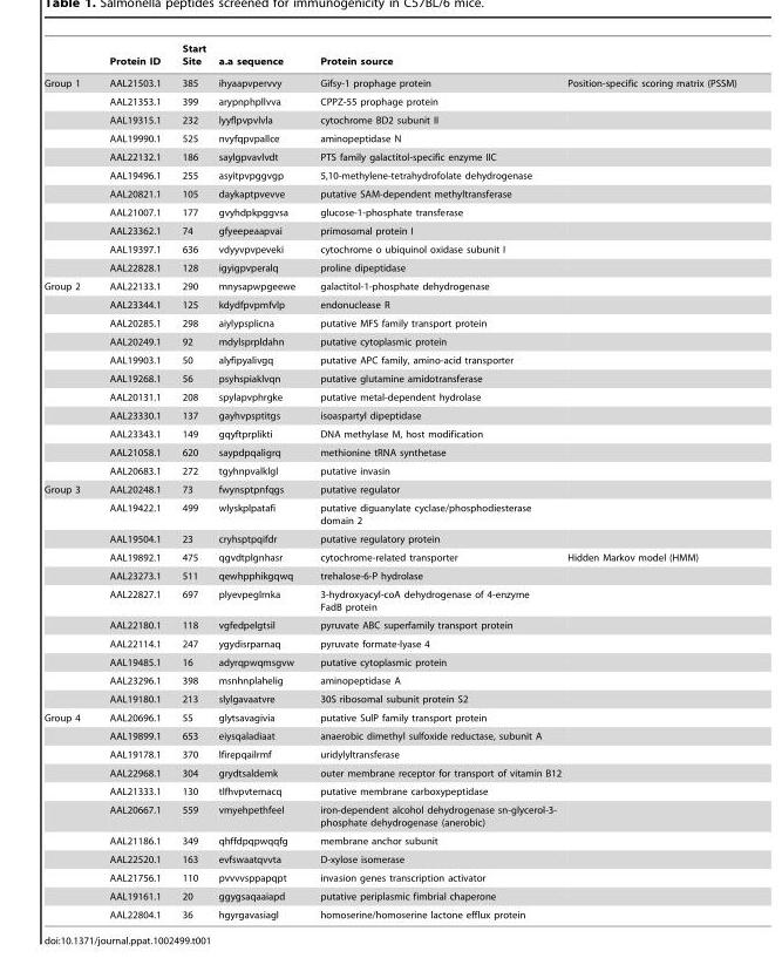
<table><thead><tr><td></td><td>Protein ID</td><td>Start Site</td><td>a.a sequence</td><td>Protein source</td><td></td></tr></thead><tbody><tr><td rowspan="11">Group 1</td><td>AAL21503.1</td><td>385</td><td>ihyaapvpervvy</td><td>Gifsy-1 prophage protein</td><td>Position-specific scoring matrix (PSSM)</td></tr><tr><td>AAL21353.1</td><td>399</td><td>arypnphpllvva</td><td>CPPZ-55 prophage protein</td><td></td></tr><tr><td>AAL19315.1</td><td>232</td><td>lyyflpvpvlvla</td><td>cytochrome BD2 subunit II</td><td></td></tr><tr><td>AAL19990.1</td><td>525</td><td>nvyfqpvpallce</td><td>aminopeptidase N</td><td></td></tr><tr><td>AAL22132.1</td><td>186</td><td>saylgpvavlvdt</td><td>PTS family galactitol-specific enzyme IIC</td><td></td></tr><tr><td>AAL19496.1</td><td>255</td><td>asyitpvpggvgp</td><td>5,10-methylene-tetrahydrofolate dehydrogenase</td><td></td></tr><tr><td>AAL20821.1</td><td>105</td><td>daykaptpvevve</td><td>putative SAM-dependent methyltransferase</td><td></td></tr><tr><td>AAL21007.1</td><td>177</td><td>gvyhdpkpggvsa</td><td>glucose-1-phosphate transferase</td><td></td></tr><tr><td>AAL23362.1</td><td>74</td><td>gfyeepeaapvai</td><td>primosomal protein I</td><td></td></tr><tr><td>AAL19397.1</td><td>636</td><td>vdyyvpvpeveki</td><td>cytochrome o ubiquinol oxidase subunit I</td><td></td></tr><tr><td>AAL22828.1</td><td>128</td><td>igyigpvperalq</td><td>proline dipeptidase</td><td></td></tr><tr><td rowspan="11">Group 2</td><td>AAL22133.1</td><td>290</td><td>mnysapwpgeewe</td><td>galactitol-1-phosphate dehydrogenase</td><td></td></tr><tr><td>AAL23344.1</td><td>125</td><td>kdydfpvpmfvlp</td><td>endonuclease R</td><td></td></tr><tr><td>AAL20285.1</td><td>298</td><td>aiylypsplicna</td><td>putative MFS family transport protein</td><td></td></tr><tr><td>AAL20249.1</td><td>92</td><td>mdylsprpldahn</td><td>putative cytoplasmic protein</td><td></td></tr><tr><td>AAL19903.1</td><td>50</td><td>alyfipyalivgq</td><td>putative APC family, amino-acid transporter</td><td></td></tr><tr><td>AAL19268.1</td><td>56</td><td>psyhspiaklvqn</td><td>putative glutamine amidotransferase</td><td></td></tr><tr><td>AAL20131.1</td><td>208</td><td>spylapvphrgke</td><td>putative metal-dependent hydrolase</td><td></td></tr><tr><td>AAL23330.1</td><td>137</td><td>gayhvpsptitgs</td><td>isoaspartyl dipeptidase</td><td></td></tr><tr><td>AAL23343.1</td><td>149</td><td>gqyftprplikti</td><td>DNA methylase M, host modification</td><td></td></tr><tr><td>AAL21058.1</td><td>620</td><td>saypdpqaligrq</td><td>methionine tRNA synthetase</td><td></td></tr><tr><td>AAL20683.1</td><td>272</td><td>tgyhnpvalklgl</td><td>putative invasin</td><td></td></tr><tr><td rowspan="11">Group 3</td><td>AAL20248.1</td><td>73</td><td>fwynsptpnfqgs</td><td>putative regulator</td><td></td></tr><tr><td>AAL19422.1</td><td>499</td><td>wlyskplpatafi</td><td>putative diguanylate cyclase/phosphodiesterase domain 2</td><td></td></tr><tr><td>AAL19504.1</td><td>23</td><td>cryhsptpqifdr</td><td>putative regulatory protein</td><td></td></tr><tr><td>AAL19892.1</td><td>475</td><td>qgvdtplgnhasr</td><td>cytochrome-related transporter</td><td>Hidden Markov model (HMM)</td></tr><tr><td>AAL23273.1</td><td>511</td><td>qewhpphikgqwq</td><td>trehalose-6-P hydrolase</td><td></td></tr><tr><td>AAL22827.1</td><td>697</td><td>plyevpeglrnka</td><td>3-hydroxyacyl-coA dehydrogenase of 4-enzyme FadB protein</td><td></td></tr><tr><td>AAL22180.1</td><td>118</td><td>vgfedpelgtsil</td><td>pyruvate ABC superfamily transport protein</td><td></td></tr><tr><td>AAL22114.1</td><td>247</td><td>ygydisrparnaq</td><td>pyruvate formate-lyase 4</td><td></td></tr><tr><td>AAL19485.1</td><td>16</td><td>adyrqpwqmsgvw</td><td>putative cytoplasmic protein</td><td></td></tr><tr><td>AAL23296.1</td><td>398</td><td>msnhnplahelig</td><td>aminopeptidase A</td><td></td></tr><tr><td>AAL19180.1</td><td>213</td><td>slylgavaatvre</td><td>30S ribosomal subunit protein S2</td><td></td></tr><tr><td rowspan="11">Group 4</td><td>AAL20696.1</td><td>55</td><td>glytsavagivia</td><td>putative SulP family transport protein</td><td></td></tr><tr><td>AAL19899.1</td><td>653</td><td>eiysqaladiaat</td><td>anaerobic dimethyl sulfoxide reductase, subunit A</td><td></td></tr><tr><td>AAL19178.1</td><td>370</td><td>lfirepqailrmf</td><td>uridylyltransferase</td><td></td></tr><tr><td>AAL22968.1</td><td>304</td><td>grydtsaldemk</td><td>outer membrane receptor for transport of vitamin B12</td><td></td></tr><tr><td>AAL21333.1</td><td>130</td><td>tlfhvpvtemacq</td><td>putative membrane carboxypeptidase</td><td></td></tr><tr><td>AAL20667.1</td><td>559</td><td>vmyehpethfeel</td><td>iron-dependent alcohol dehydrogenase sn-glycerol-3- phosphate dehydrogenase (anerobic)</td><td></td></tr><tr><td>AAL21186.1</td><td>349</td><td>qhffdpqpwqqfg</td><td>membrane anchor subunit</td><td></td></tr><tr><td>AAL22520.1</td><td>163</td><td>evfswaatqvvta</td><td>D-xylose isomerase</td><td></td></tr><tr><td>AAL21756.1</td><td>110</td><td>pvvvvsppapqpt</td><td>invasion genes transcription activator</td><td></td></tr><tr><td>AAL19161.1</td><td>20</td><td>ggygsaqaaiapd</td><td>putative periplasmic fimbrial chaperone</td><td></td></tr><tr><td>AAL22804.1</td><td>36</td><td>hgyrgavasiagl</td><td>homoserine/homoserine lactone efflux protein</td><td></td></tr></tbody></table>